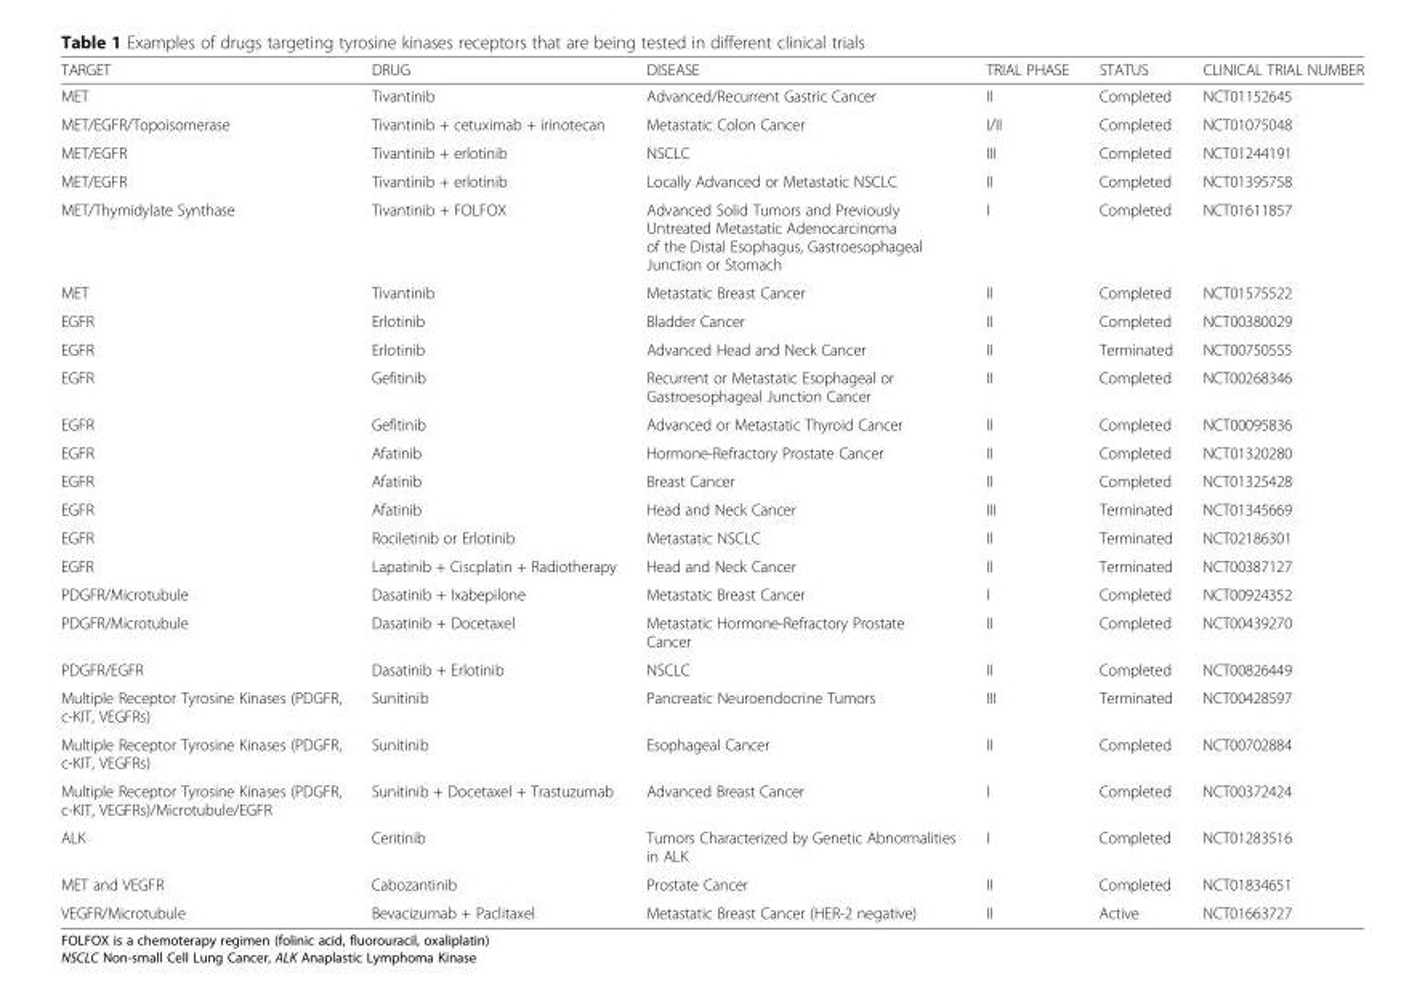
<table><thead><tr><td>TARGET</td><td>DRUG</td><td>DISEASE</td><td>TRIAL PHASE</td><td>STATUS</td><td>CLINICAL TRIAL NUMBER</td></tr></thead><tbody><tr><td>MET</td><td>Tivantinib</td><td>Advanced/Recurrent Gastric Cancer</td><td>II</td><td>Completed</td><td>NCT01152645</td></tr><tr><td>MET/EGFR/Topoisomerase</td><td>Tivantinib + cetuximab + irinotecan</td><td>Metastatic Colon Cancer</td><td>I/II</td><td>Completed</td><td>NCT01075048</td></tr><tr><td>MET/EGFR</td><td>Tivantinib + erlotinib</td><td>NSCLC</td><td>III</td><td>Completed</td><td>NCT01244191</td></tr><tr><td>MET/EGFR</td><td>Tivantinib + erlotinib</td><td>Locally Advanced or Metastatic NSCLC</td><td>II</td><td>Completed</td><td>NCT01395758</td></tr><tr><td>MET/Thymidylate Synthase</td><td>Tivantinib + FOLFOX</td><td>Advanced Solid Tumors and Previously Untreated Metastatic Adenocarcinoma of the Distal Esophagus, Gastroesophageal Junction or Stomach</td><td>I</td><td>Completed</td><td>NCT01611857</td></tr><tr><td>MET</td><td>Tivantinib</td><td>Metastatic Breast Cancer</td><td>II</td><td>Completed</td><td>NCT01575522</td></tr><tr><td>EGFR</td><td>Erlotinib</td><td>Bladder Cancer</td><td>II</td><td>Completed</td><td>NCT00380029</td></tr><tr><td>EGFR</td><td>Erlotinib</td><td>Advanced Head and Neck Cancer</td><td>II</td><td>Terminated</td><td>NCT00750555</td></tr><tr><td>EGFR</td><td>Gefitinib</td><td>Recurrent or Metastatic Esophageal or Gastroesophageal Junction Cancer</td><td>II</td><td>Completed</td><td>NCT00268346</td></tr><tr><td>EGFR</td><td>Gefitinib</td><td>Advanced or Metastatic Thyroid Cancer</td><td>II</td><td>Completed</td><td>NCT00095836</td></tr><tr><td>EGFR</td><td>Afatinib</td><td>Hormone-Refractory Prostate Cancer</td><td>II</td><td>Completed</td><td>NCT01320280</td></tr><tr><td>EGFR</td><td>Afatinib</td><td>Breast Cancer</td><td>II</td><td>Completed</td><td>NCT01325428</td></tr><tr><td>EGFR</td><td>Afatinib</td><td>Head and Neck Cancer</td><td>III</td><td>Terminated</td><td>NCT01345669</td></tr><tr><td>EGFR</td><td>Rociletinib or Erlotinib</td><td>Metastatic NSCLC</td><td>II</td><td>Terminated</td><td>NCT02186301</td></tr><tr><td>EGFR</td><td>Lapatinib + Ciscplatin + Radiotherapy</td><td>Head and Neck Cancer</td><td>II</td><td>Terminated</td><td>NCT00387127</td></tr><tr><td>PDGFR/Microtubule</td><td>Dasatinib + Ixabepilone</td><td>Metastatic Breast Cancer</td><td>I</td><td>Completed</td><td>NCT00924352</td></tr><tr><td>PDGFR/Microtubule</td><td>Dasatinib + Docetaxel</td><td>Metastatic Hormone-Refractory Prostate Cancer</td><td>II</td><td>Completed</td><td>NCT00439270</td></tr><tr><td>PDGFR/EGFR</td><td>Dasatinib + Erlotinib</td><td>NSCLC</td><td>II</td><td>Completed</td><td>NCT00826449</td></tr><tr><td>Multiple Receptor Tyrosine Kinases (PDGFR, c-KIT, VEGFRs)</td><td>Sunitinib</td><td>Pancreatic Neuroendocrine Tumors</td><td>III</td><td>Terminated</td><td>NCT00428597</td></tr><tr><td>Multiple Receptor Tyrosine Kinases (PDGFR, c-KIT, VEGFRs)</td><td>Sunitinib</td><td>Esophageal Cancer</td><td>II</td><td>Completed</td><td>NCT00702884</td></tr><tr><td>Multiple Receptor Tyrosine Kinases (PDGFR, c-KIT, VEGFRs)/Microtubule/EGFR</td><td>Sunitinib + Docetaxel + Trastuzumab</td><td>Advanced Breast Cancer</td><td>I</td><td>Completed</td><td>NCT00372424</td></tr><tr><td>ALK</td><td>Ceritinib</td><td>Tumors Characterized by Genetic Abnormalities in ALK</td><td>I</td><td>Completed</td><td>NCT01283516</td></tr><tr><td>MET and VEGFR</td><td>Cabozantinib</td><td>Prostate Cancer</td><td>II</td><td>Completed</td><td>NCT01834651</td></tr><tr><td>VEGFR/Microtubule</td><td>Bevacizumab + Paclitaxel</td><td>Metastatic Breast Cancer (HER-2 negative)</td><td>II</td><td>Active</td><td>NCT01663727</td></tr></tbody></table>